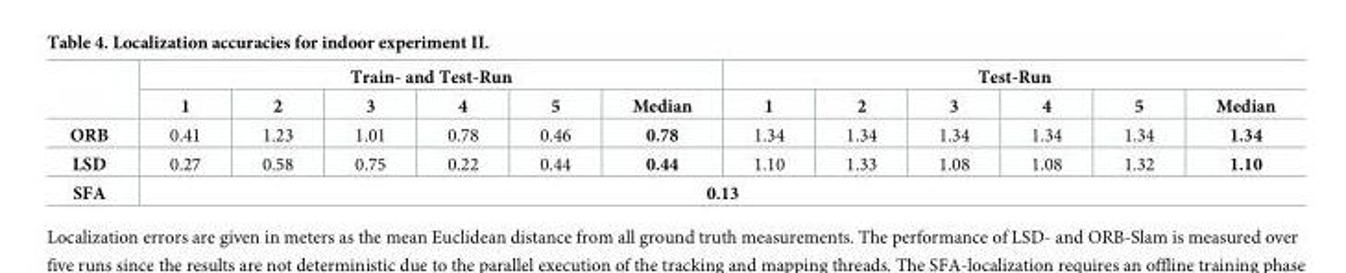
<table><thead><tr><td rowspan="2"></td><td colspan="6">Train- and Test-Run</td><td colspan="6">Test-Run</td></tr><tr><td>1</td><td>2</td><td>3</td><td>4</td><td>5</td><td>Median</td><td>1</td><td>2</td><td>3</td><td>4</td><td>5</td><td>Median</td></tr></thead><tbody><tr><td>ORB</td><td>0.41</td><td>1.23</td><td>1.01</td><td>0.78</td><td>0.46</td><td>0.78</td><td>1.34</td><td>1.34</td><td>1.34</td><td>1.34</td><td>1.34</td><td>1.34</td></tr><tr><td>LSD</td><td>0.27</td><td>0.58</td><td>0.75</td><td>0.22</td><td>0.44</td><td>0.44</td><td>1.10</td><td>1.33</td><td>1.08</td><td>1.08</td><td>1.32</td><td>1.10</td></tr><tr><td>SFA</td><td colspan="12">0.13</td></tr></tbody></table>